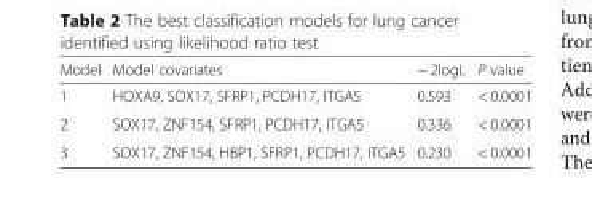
<table><thead><tr><td>Model</td><td>Model covariates</td><td>− 2logL</td><td>P value</td></tr></thead><tbody><tr><td>1</td><td>HOXA9, SOX17, SFRP1, PCDH17, ITGA5</td><td>0.593</td><td>&lt; 0.0001</td></tr><tr><td>2</td><td>SOX17, ZNF154, SFRP1, PCDH17, ITGA5</td><td>0.336</td><td>&lt; 0.0001</td></tr><tr><td>3</td><td>SOX17, ZNF154, HBP1, SFRP1, PCDH17, ITGA5</td><td>0.230</td><td>&lt; 0.0001</td></tr></tbody></table>